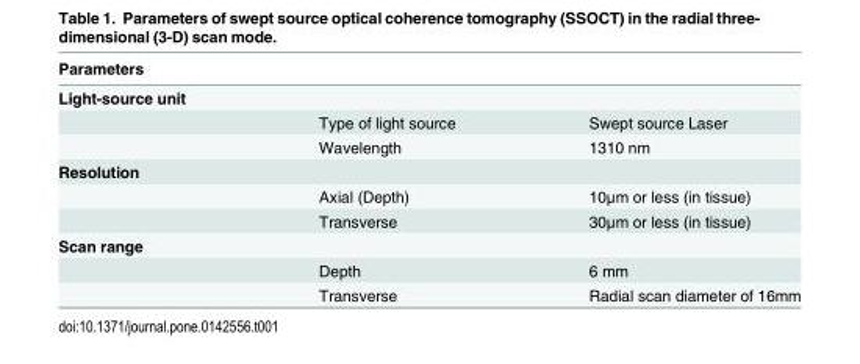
<table><thead><tr><td colspan="3">Parameters</td></tr><tr><td>Light-source unit</td><td></td><td></td></tr></thead><tbody><tr><td></td><td>Type of light source</td><td>Swept source Laser</td></tr><tr><td></td><td>Wavelength</td><td>1310 nm</td></tr><tr><td colspan="3">Resolution</td></tr><tr><td></td><td>Axial (Depth)</td><td>10μm or less (in tissue)</td></tr><tr><td></td><td>Transverse</td><td>30μm or less (in tissue)</td></tr><tr><td colspan="3">Scan range</td></tr><tr><td></td><td>Depth</td><td>6 mm</td></tr><tr><td></td><td>Transverse</td><td>Radial scan diameter of 16mm</td></tr></tbody></table>